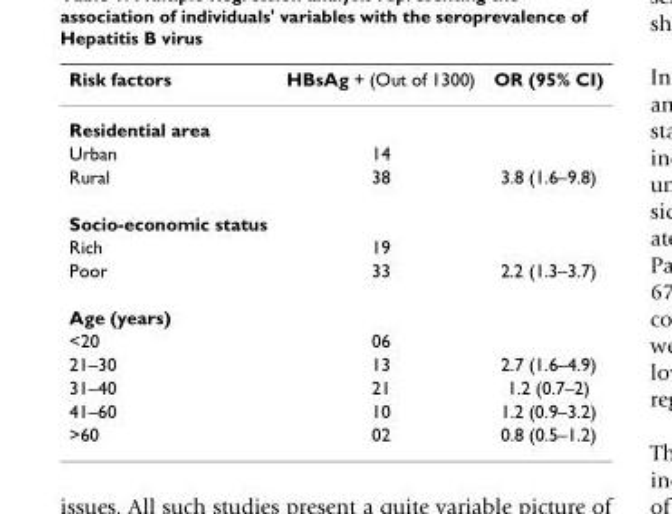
<table><thead><tr><td>Risk factors</td><td>HBsAg + (Out of 1300)</td><td>OR (95% CI)</td></tr></thead><tbody><tr><td colspan="3">Residential area</td></tr><tr><td>Urban</td><td>14</td><td></td></tr><tr><td>Rural</td><td>38</td><td>3.8 (1.6–9.8)</td></tr><tr><td colspan="3">Socio-economic status</td></tr><tr><td>Rich</td><td>19</td><td></td></tr><tr><td>Poor</td><td>33</td><td>2.2 (1.3–3.7)</td></tr><tr><td colspan="3">Age (years)</td></tr><tr><td>&lt;20</td><td>06</td><td></td></tr><tr><td>21–30</td><td>13</td><td>2.7 (1.6–4.9)</td></tr><tr><td>31–40</td><td>21</td><td>1.2 (0.7–2)</td></tr><tr><td>41–60</td><td>10</td><td>1.2 (0.9–3.2)</td></tr><tr><td>&gt;60</td><td>02</td><td>0.8 (0.5–1.2)</td></tr></tbody></table>